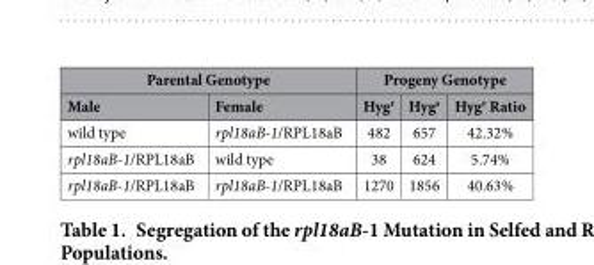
<table><thead><tr><td colspan="2">Parental Genotype</td><td colspan="3">Progeny Genotype</td></tr><tr><td>Male</td><td>Female</td><td>Hyg<sup>r</sup></td><td>Hyg<sup>s</sup></td><td>Hyg<sup>r</sup> Ratio</td></tr></thead><tbody><tr><td>wild type</td><td>rpl18aB-1/RPL18aB</td><td>482</td><td>657</td><td>42.32%</td></tr><tr><td>rpl18aB-1/RPL18aB</td><td>wild type</td><td>38</td><td>624</td><td>5.74%</td></tr><tr><td>rpl18aB-1/RPL18aB</td><td>rpl18aB-1/RPL18aB</td><td>1270</td><td>1856</td><td>40.63%</td></tr></tbody></table>